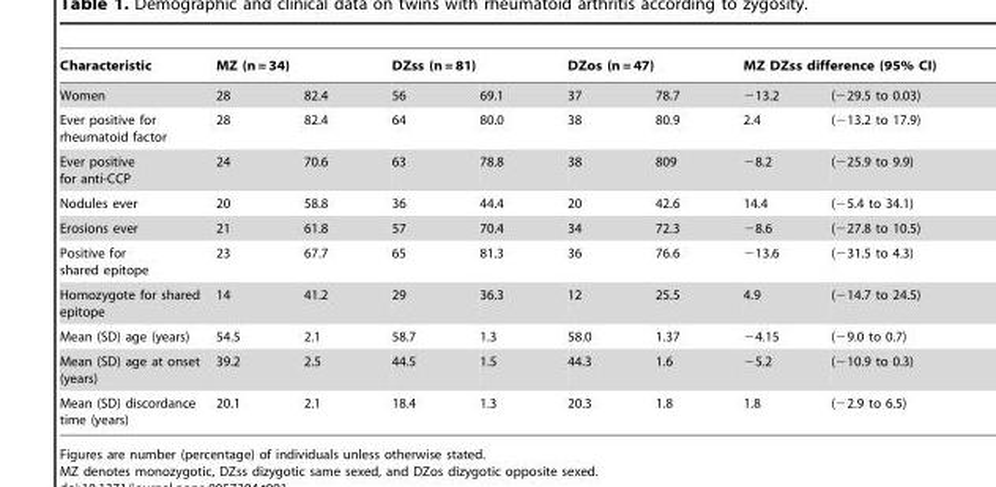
<table><thead><tr><td rowspan="2">Characteristic Women</td><td colspan="2">MZ (n = 34)</td><td colspan="2">DZss (n = 81)</td><td colspan="2">DZos (n = 47)</td><td colspan="2">MZ DZss difference (95% CI)</td></tr><tr><td>28</td><td>82.4</td><td>56</td><td>69.1</td><td>37</td><td>78.7</td><td>−13.2</td><td>(−29.5 to 0.03)</td></tr></thead><tbody><tr><td>Ever positive for rheumatoid factor</td><td>28</td><td>82.4</td><td>64</td><td>80.0</td><td>38</td><td>80.9</td><td>2.4</td><td>(−13.2 to 17.9)</td></tr><tr><td>Ever positive for anti-CCP</td><td>24</td><td>70.6</td><td>63</td><td>78.8</td><td>38</td><td>809</td><td>−8.2</td><td>(−25.9 to 9.9)</td></tr><tr><td>Nodules ever</td><td>20</td><td>58.8</td><td>36</td><td>44.4</td><td>20</td><td>42.6</td><td>14.4</td><td>(−5.4 to 34.1)</td></tr><tr><td>Erosions ever</td><td>21</td><td>61.8</td><td>57</td><td>70.4</td><td>34</td><td>72.3</td><td>−8.6</td><td>(−27.8 to 10.5)</td></tr><tr><td>Positive for shared epitope</td><td>23</td><td>67.7</td><td>65</td><td>81.3</td><td>36</td><td>76.6</td><td>−13.6</td><td>(−31.5 to 4.3)</td></tr><tr><td>Homozygote for shared epitope</td><td>14</td><td>41.2</td><td>29</td><td>36.3</td><td>12</td><td>25.5</td><td>4.9</td><td>(−14.7 to 24.5)</td></tr><tr><td>Mean (SD) age (years)</td><td>54.5</td><td>2.1</td><td>58.7</td><td>1.3</td><td>58.0</td><td>1.37</td><td>−4.15</td><td>(−9.0 to 0.7)</td></tr><tr><td>Mean (SD) age at onset (years)</td><td>39.2</td><td>2.5</td><td>44.5</td><td>1.5</td><td>44.3</td><td>1.6</td><td>−5.2</td><td>(−10.9 to 0.3)</td></tr><tr><td>Mean (SD) discordance time (years)</td><td>20.1</td><td>2.1</td><td>18.4</td><td>1.3</td><td>20.3</td><td>1.8</td><td>1.8</td><td>(−2.9 to 6.5)</td></tr></tbody></table>